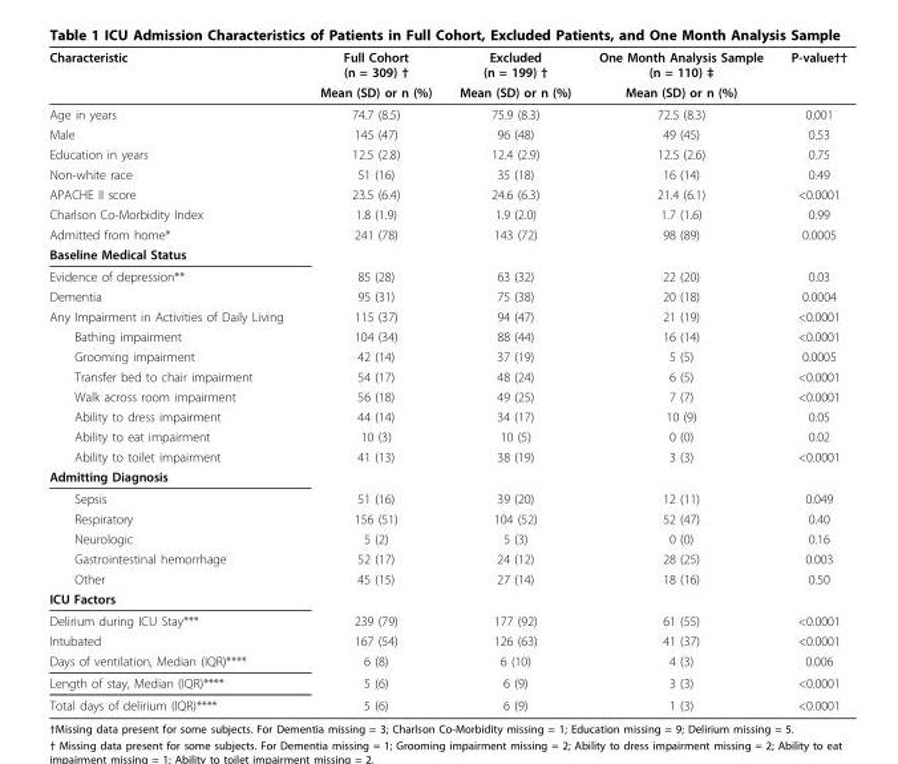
<table><thead><tr><td rowspan="2">Characteristic</td><td rowspan="2">Full Cohort (n = 309) † Mean (SD) or n (%)</td><td rowspan="2">Excluded (n = 199) † Mean (SD) or n (%)</td><td rowspan="2">One Month Analysis Sample (n = 110) ‡ Mean (SD) or n (%)</td><td rowspan="2">P-value††</td></tr><tr></tr></thead><tbody><tr><td>Age in years</td><td>74.7 (8.5)</td><td>75.9 (8.3)</td><td>72.5 (8.3)</td><td>0.001</td></tr><tr><td>Male</td><td>145 (47)</td><td>96 (48)</td><td>49 (45)</td><td>0.53</td></tr><tr><td>Education in years</td><td>12.5 (2.8)</td><td>12.4 (2.9)</td><td>12.5 (2.6)</td><td>0.75</td></tr><tr><td>Non-white race</td><td>51 (16)</td><td>35 (18)</td><td>16 (14)</td><td>0.49</td></tr><tr><td>APACHE II score</td><td>23.5 (6.4)</td><td>24.6 (6.3)</td><td>21.4 (6.1)</td><td>&lt;0.0001</td></tr><tr><td>Charlson Co-Morbidity Index</td><td>1.8 (1.9)</td><td>1.9 (2.0)</td><td>1.7 (1.6)</td><td>0.99</td></tr><tr><td>Admitted from home*</td><td>241 (78)</td><td>143 (72)</td><td>98 (89)</td><td>0.0005</td></tr><tr><td colspan="5">Baseline Medical Status</td></tr><tr><td>Evidence of depression**</td><td>85 (28)</td><td>63 (32)</td><td>22 (20)</td><td>0.03</td></tr><tr><td>Dementia</td><td>95 (31)</td><td>75 (38)</td><td>20 (18)</td><td>0.0004</td></tr><tr><td>Any Impairment in Activities of Daily Living</td><td>115 (37)</td><td>94 (47)</td><td>21 (19)</td><td>&lt;0.0001</td></tr><tr><td>Bathing impairment</td><td>104 (34)</td><td>88 (44)</td><td>16 (14)</td><td>&lt;0.0001</td></tr><tr><td>Grooming impairment</td><td>42 (14)</td><td>37 (19)</td><td>5 (5)</td><td>0.0005</td></tr><tr><td>Transfer bed to chair impairment</td><td>54 (17)</td><td>48 (24)</td><td>6 (5)</td><td>&lt;0.0001</td></tr><tr><td>Walk across room impairment</td><td>56 (18)</td><td>49 (25)</td><td>7 (7)</td><td>&lt;0.0001</td></tr><tr><td>Ability to dress impairment</td><td>44 (14)</td><td>34 (17)</td><td>10 (9)</td><td>0.05</td></tr><tr><td>Ability to eat impairment</td><td>10 (3)</td><td>10 (5)</td><td>0 (0)</td><td>0.02</td></tr><tr><td>Ability to toilet impairment</td><td>41 (13)</td><td>38 (19)</td><td>3 (3)</td><td>&lt;0.0001</td></tr><tr><td colspan="5">Admitting Diagnosis</td></tr><tr><td>Sepsis</td><td>51 (16)</td><td>39 (20)</td><td>12 (11)</td><td>0.049</td></tr><tr><td>Respiratory</td><td>156 (51)</td><td>104 (52)</td><td>52 (47)</td><td>0.40</td></tr><tr><td>Neurologic</td><td>5 (2)</td><td>5 (3)</td><td>0 (0)</td><td>0.16</td></tr><tr><td>Gastrointestinal hemorrhage</td><td>52 (17)</td><td>24 (12)</td><td>28 (25)</td><td>0.003</td></tr><tr><td>Other</td><td>45 (15)</td><td>27 (14)</td><td>18 (16)</td><td>0.50</td></tr><tr><td colspan="5">ICU Factors</td></tr><tr><td>Delirium during ICU Stay***</td><td>239 (79)</td><td>177 (92)</td><td>61 (55)</td><td>&lt;0.0001</td></tr><tr><td>Intubated</td><td>167 (54)</td><td>126 (63)</td><td>41 (37)</td><td>&lt;0.0001</td></tr><tr><td>Days of ventilation, Median (IQR)****</td><td>6 (8)</td><td>6 (10)</td><td>4 (3)</td><td>0.006</td></tr><tr><td>Length of stay, Median (IQR)****</td><td>5 (6)</td><td>6 (9)</td><td>3 (3)</td><td>&lt;0.0001</td></tr><tr><td>Total days of delirium (IQR)****</td><td>5 (6)</td><td>6 (9)</td><td>1 (3)</td><td>&lt;0.0001</td></tr></tbody></table>